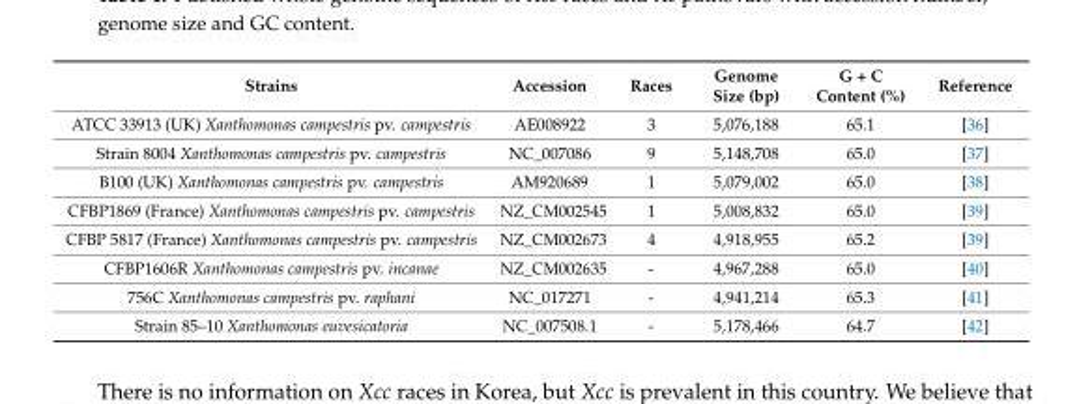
<table><thead><tr><td>Strains</td><td>Accession</td><td>Races</td><td>Genome Size (bp)</td><td>G + C Content (%)</td><td>Reference</td></tr></thead><tbody><tr><td>ATCC 33913 (UK) Xanthomonas campestris pv. campestris</td><td>AE008922</td><td>3</td><td>5,076,188</td><td>65.1</td><td>[36]</td></tr><tr><td>Strain 8004 Xanthomonas campestris pv. campestris</td><td>NC_007086</td><td>9</td><td>5,148,708</td><td>65.0</td><td>[37]</td></tr><tr><td>B100 (UK) Xanthomonas campestris pv. campestris</td><td>AM920689</td><td>1</td><td>5,079,002</td><td>65.0</td><td>[38]</td></tr><tr><td>CFBP1869 (France) Xanthomonas campestris pv. campestris</td><td>NZ_CM002545</td><td>1</td><td>5,008,832</td><td>65.0</td><td>[39]</td></tr><tr><td>CFBP 5817 (France) Xanthomonas campestris pv. campestris</td><td>NZ_CM002673</td><td>4</td><td>4,918,955</td><td>65.2</td><td>[39]</td></tr><tr><td>CFBP1606R Xanthomonas campestris pv. incanae</td><td>NZ_CM002635</td><td>-</td><td>4,967,288</td><td>65.0</td><td>[40]</td></tr><tr><td>756C Xanthomonas campestris pv. raphani</td><td>NC_017271</td><td>-</td><td>4,941,214</td><td>65.3</td><td>[41]</td></tr><tr><td>Strain 85–10 Xanthomonas euvesicatoria</td><td>NC_007508.1</td><td>-</td><td>5,178,466</td><td>64.7</td><td>[42]</td></tr></tbody></table>